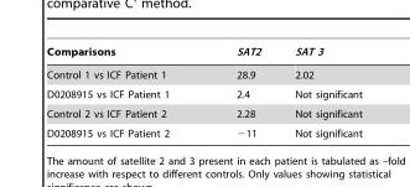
<table><thead><tr><td>Comparisons</td><td>SAT2</td><td>SAT 3</td></tr></thead><tbody><tr><td>Control 1 vs ICF Patient 1</td><td>28.9</td><td>2.02</td></tr><tr><td>D0208915 vs ICF Patient 1</td><td>2.4</td><td>Not significant</td></tr><tr><td>Control 2 vs ICF Patient 2</td><td>2.28</td><td>Not significant</td></tr><tr><td>D0208915 vs ICF Patient 2</td><td>−11</td><td>Not significant</td></tr></tbody></table>